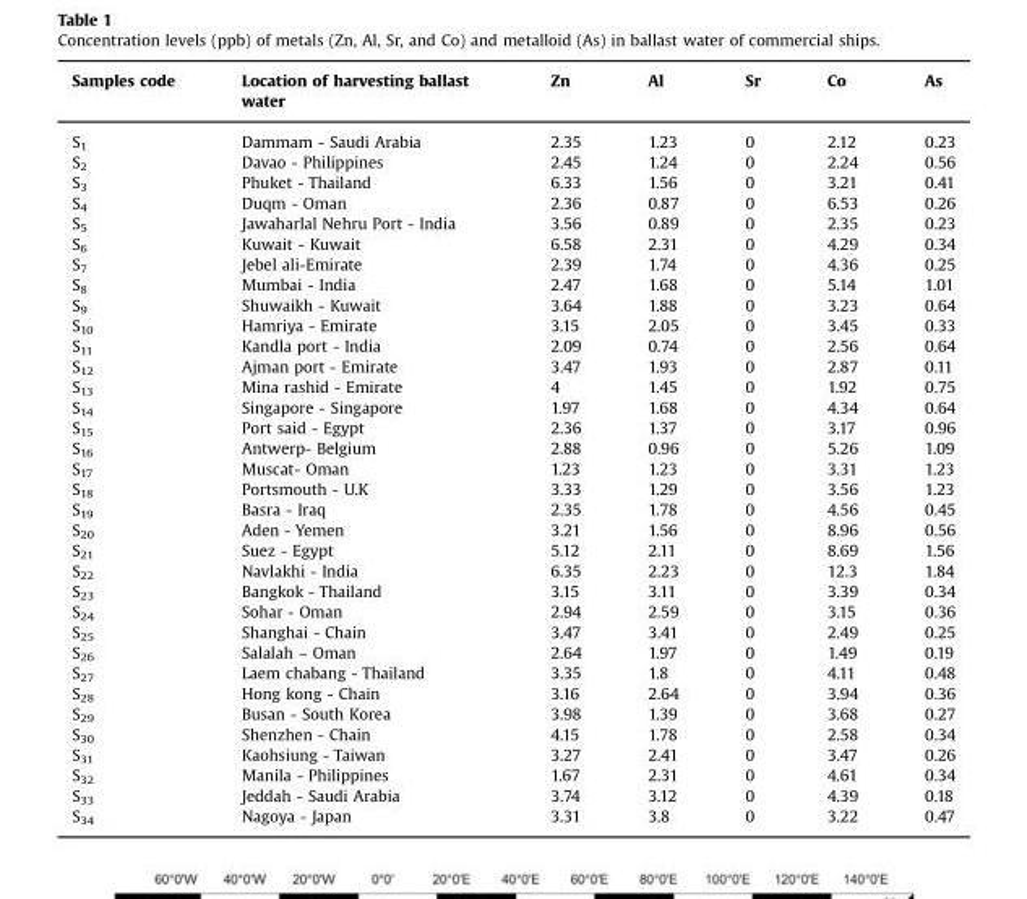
<table><thead><tr><td>Samples code</td><td>Location of harvesting ballast water</td><td>Zn</td><td>Al</td><td>Sr</td><td>Co</td><td>As</td></tr></thead><tbody><tr><td>S<sub>1</sub></td><td>Dammam - Saudi Arabia</td><td>2.35</td><td>1.23</td><td>0</td><td>2.12</td><td>0.23</td></tr><tr><td>S<sub>2</sub></td><td>Davao - Philippines</td><td>2.45</td><td>1.24</td><td>0</td><td>2.24</td><td>0.56</td></tr><tr><td>S<sub>3</sub></td><td>Phuket - Thailand</td><td>6.33</td><td>1.56</td><td>0</td><td>3.21</td><td>0.41</td></tr><tr><td>S<sub>4</sub></td><td>Duqm - Oman</td><td>2.36</td><td>0.87</td><td>0</td><td>6.53</td><td>0.26</td></tr><tr><td>S<sub>5</sub></td><td>Jawaharlal Nehru Port - India</td><td>3.56</td><td>0.89</td><td>0</td><td>2.35</td><td>0.23</td></tr><tr><td>S<sub>6</sub></td><td>Kuwait - Kuwait</td><td>6.58</td><td>2.31</td><td>0</td><td>4.29</td><td>0.34</td></tr><tr><td>S<sub>7</sub></td><td>Jebel ali-Emirate</td><td>2.39</td><td>1.74</td><td>0</td><td>4.36</td><td>0.25</td></tr><tr><td>S<sub>8</sub></td><td>Mumbai - India</td><td>2.47</td><td>1.68</td><td>0</td><td>5.14</td><td>1.01</td></tr><tr><td>S<sub>9</sub></td><td>Shuwaikh - Kuwait</td><td>3.64</td><td>1.88</td><td>0</td><td>3.23</td><td>0.64</td></tr><tr><td>S<sub>10</sub></td><td>Hamriya - Emirate</td><td>3.15</td><td>2.05</td><td>0</td><td>3.45</td><td>0.33</td></tr><tr><td>S<sub>11</sub></td><td>Kandla port - India</td><td>2.09</td><td>0.74</td><td>0</td><td>2.56</td><td>0.64</td></tr><tr><td>S<sub>12</sub></td><td>Ajman port - Emirate</td><td>3.47</td><td>1.93</td><td>0</td><td>2.87</td><td>0.11</td></tr><tr><td>S<sub>13</sub></td><td>Mina rashid - Emirate</td><td>4</td><td>1.45</td><td>0</td><td>1.92</td><td>0.75</td></tr><tr><td>S<sub>14</sub></td><td>Singapore - Singapore</td><td>1.97</td><td>1.68</td><td>0</td><td>4.34</td><td>0.64</td></tr><tr><td>S<sub>15</sub></td><td>Port said - Egypt</td><td>2.36</td><td>1.37</td><td>0</td><td>3.17</td><td>0.96</td></tr><tr><td>S<sub>16</sub></td><td>Antwerp- Belgium</td><td>2.88</td><td>0.96</td><td>0</td><td>5.26</td><td>1.09</td></tr><tr><td>S<sub>17</sub></td><td>Muscat- Oman</td><td>1.23</td><td>1.23</td><td>0</td><td>3.31</td><td>1.23</td></tr><tr><td>S<sub>18</sub></td><td>Portsmouth - U.K</td><td>3.33</td><td>1.29</td><td>0</td><td>3.56</td><td>1.23</td></tr><tr><td>S<sub>19</sub></td><td>Basra - Iraq</td><td>2.35</td><td>1.78</td><td>0</td><td>4.56</td><td>0.45</td></tr><tr><td>S<sub>20</sub></td><td>Aden - Yemen</td><td>3.21</td><td>1.56</td><td>0</td><td>8.96</td><td>0.56</td></tr><tr><td>S<sub>21</sub></td><td>Suez - Egypt</td><td>5.12</td><td>2.11</td><td>0</td><td>8.69</td><td>1.56</td></tr><tr><td>S<sub>22</sub></td><td>Navlakhi - India</td><td>6.35</td><td>2.23</td><td>0</td><td>12.3</td><td>1.84</td></tr><tr><td>S<sub>23</sub></td><td>Bangkok - Thailand</td><td>3.15</td><td>3.11</td><td>0</td><td>3.39</td><td>0.34</td></tr><tr><td>S<sub>24</sub></td><td>Sohar - Oman</td><td>2.94</td><td>2.59</td><td>0</td><td>3.15</td><td>0.36</td></tr><tr><td>S<sub>25</sub></td><td>Shanghai - Chain</td><td>3.47</td><td>3.41</td><td>0</td><td>2.49</td><td>0.25</td></tr><tr><td>S<sub>26</sub></td><td>Salalah – Oman</td><td>2.64</td><td>1.97</td><td>0</td><td>1.49</td><td>0.19</td></tr><tr><td>S<sub>27</sub></td><td>Laem chabang - Thailand</td><td>3.35</td><td>1.8</td><td>0</td><td>4.11</td><td>0.48</td></tr><tr><td>S<sub>28</sub></td><td>Hong kong - Chain</td><td>3.16</td><td>2.64</td><td>0</td><td>3.94</td><td>0.36</td></tr><tr><td>S<sub>29</sub></td><td>Busan - South Korea</td><td>3.98</td><td>1.39</td><td>0</td><td>3.68</td><td>0.27</td></tr><tr><td>S<sub>30</sub></td><td>Shenzhen - Chain</td><td>4.15</td><td>1.78</td><td>0</td><td>2.58</td><td>0.34</td></tr><tr><td>S<sub>31</sub></td><td>Kaohsiung - Taiwan</td><td>3.27</td><td>2.41</td><td>0</td><td>3.47</td><td>0.26</td></tr><tr><td>S<sub>32</sub></td><td>Manila - Philippines</td><td>1.67</td><td>2.31</td><td>0</td><td>4.61</td><td>0.34</td></tr><tr><td>S<sub>33</sub></td><td>Jeddah - Saudi Arabia</td><td>3.74</td><td>3.12</td><td>0</td><td>4.39</td><td>0.18</td></tr><tr><td>S<sub>34</sub></td><td>Nagoya - Japan</td><td>3.31</td><td>3.8</td><td>0</td><td>3.22</td><td>0.47</td></tr></tbody></table>